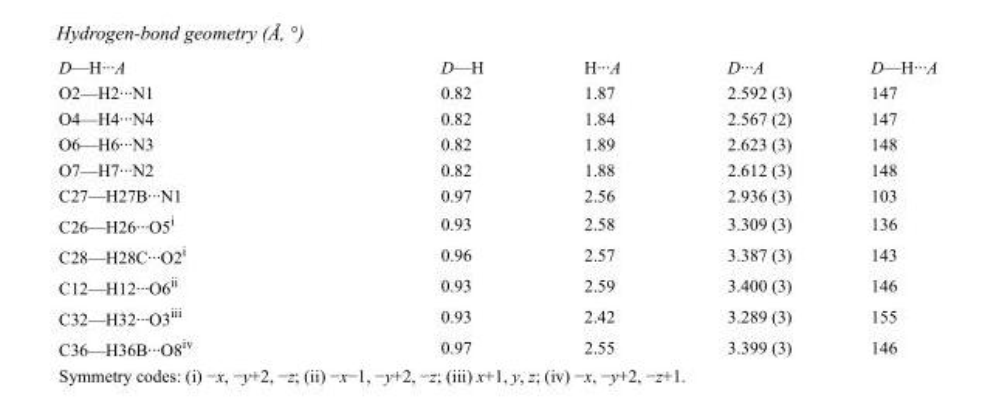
<table><tbody><tr><td>D—H···A</td><td>D—H</td><td>H···A</td><td>D···A</td><td>D—H···A</td></tr><tr><td>O2—H2···N1</td><td>0.82</td><td>1.87</td><td>2.592 (3)</td><td>147</td></tr><tr><td>O4—H4···N4</td><td>0.82</td><td>1.84</td><td>2.567 (2)</td><td>147</td></tr><tr><td>O6—H6···N3</td><td>0.82</td><td>1.89</td><td>2.623 (3)</td><td>148</td></tr><tr><td>O7—H7···N2</td><td>0.82</td><td>1.88</td><td>2.612 (3)</td><td>148</td></tr><tr><td>C27—H27B···N1</td><td>0.97</td><td>2.56</td><td>2.936 (3)</td><td>103</td></tr><tr><td>C26—H26···O5<sup>i</sup></td><td>0.93</td><td>2.58</td><td>3.309 (3)</td><td>136</td></tr><tr><td>C28—H28C···O2<sup>i</sup></td><td>0.96</td><td>2.57</td><td>3.387 (3)</td><td>143</td></tr><tr><td>C12—H12···O6<sup>ii</sup></td><td>0.93</td><td>2.59</td><td>3.400 (3)</td><td>146</td></tr><tr><td>C32—H32···O3<sup>iii</sup></td><td>0.93</td><td>2.42</td><td>3.289 (3)</td><td>155</td></tr><tr><td>C36—H36B···O8<sup>iv</sup></td><td>0.97</td><td>2.55</td><td>3.399 (3)</td><td>146</td></tr></tbody></table>